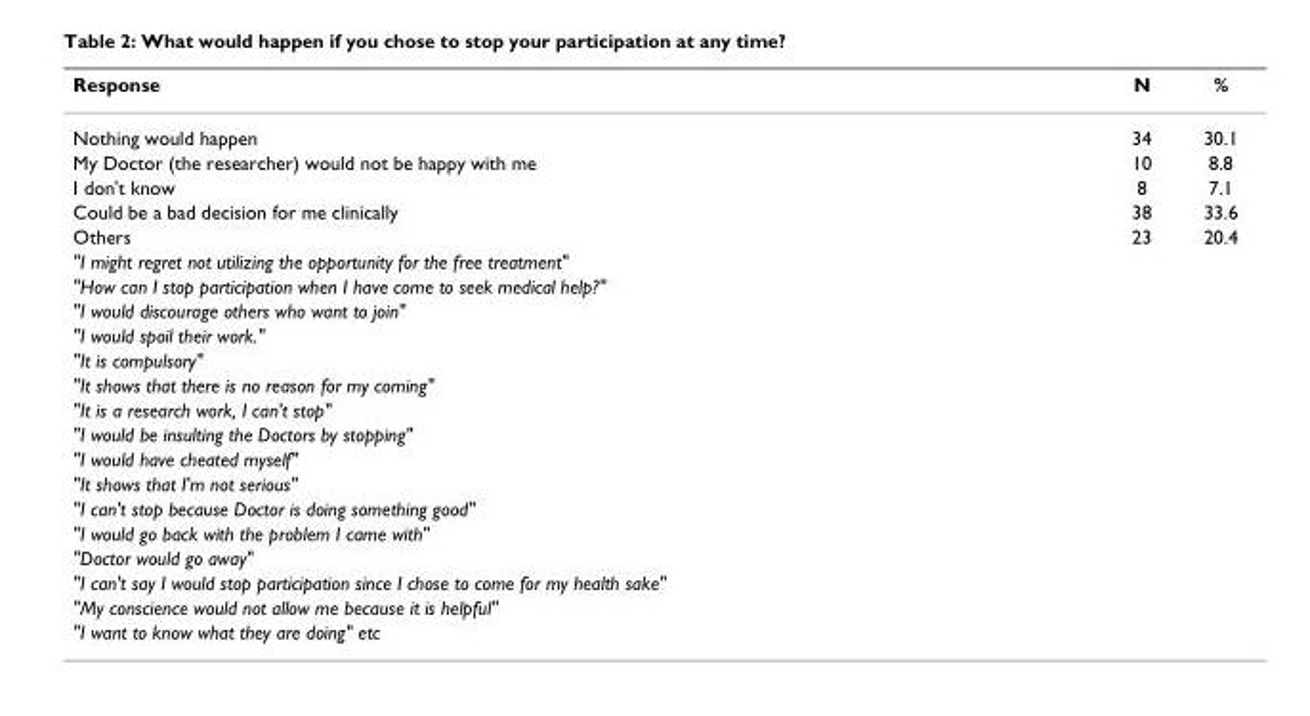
<table><thead><tr><td>Response</td><td>N</td><td>%</td></tr></thead><tbody><tr><td>Nothing would happen</td><td>34</td><td>30.1</td></tr><tr><td>My Doctor (the researcher) would not be happy with me</td><td>10</td><td>8.8</td></tr><tr><td>I don&#x27;t know</td><td>8</td><td>7.1</td></tr><tr><td>Could be a bad decision for me clinically</td><td>38</td><td>33.6</td></tr><tr><td>Others</td><td>23</td><td>20.4</td></tr><tr><td colspan="3">&quot;I might regret not utilizing the opportunity for the free treatment&quot;</td></tr><tr><td colspan="3">&quot;How can I stop participation when I have come to seek medical help?&quot;</td></tr><tr><td colspan="3">&quot;I would discourage others who want to join&quot;</td></tr><tr><td colspan="3">&quot;I would spoil their work.&quot;</td></tr><tr><td colspan="3">&quot;It is compulsory&quot;</td></tr><tr><td colspan="3">&quot;It shows that there is no reason for my coming&quot;</td></tr><tr><td colspan="3">&quot;It is a research work, I can&#x27;t stop&quot;</td></tr><tr><td colspan="3">&quot;I would be insulting the Doctors by stopping&quot;</td></tr><tr><td colspan="3">&quot;I would have cheated myself&quot;</td></tr><tr><td colspan="3">&quot;It shows that I&#x27;m not serious&quot;</td></tr><tr><td colspan="3">&quot;I can&#x27;t stop because Doctor is doing something good&quot;</td></tr><tr><td colspan="3">&quot;I would go back with the problem I came with&quot;</td></tr><tr><td colspan="3">&quot;Doctor would go away&quot;</td></tr><tr><td colspan="3">&quot;I can&#x27;t say I would stop participation since I chose to come for my health sake&quot;</td></tr><tr><td colspan="3">&quot;My conscience would not allow me because it is helpful&quot;</td></tr><tr><td>&quot;I want to know what they are doing&quot; etc</td><td></td><td></td></tr></tbody></table>